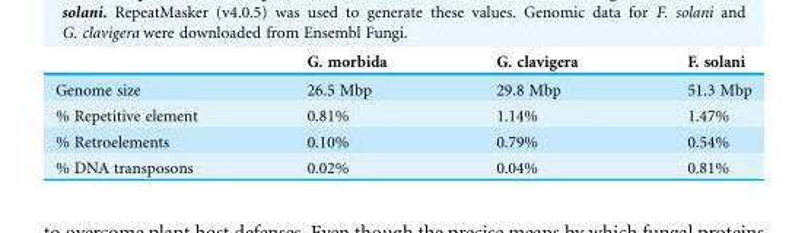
<table><thead><tr><td></td><td>G. morbida</td><td>G. clavigera</td><td>F. solani</td></tr></thead><tbody><tr><td>Genome size</td><td>26.5 Mbp</td><td>29.8 Mbp</td><td>51.3 Mbp</td></tr><tr><td>% Repetitive element</td><td>0.81%</td><td>1.14%</td><td>1.47%</td></tr><tr><td>% Retroelements</td><td>0.10%</td><td>0.79%</td><td>0.54%</td></tr><tr><td>% DNA transposons</td><td>0.02%</td><td>0.04%</td><td>0.81%</td></tr></tbody></table>